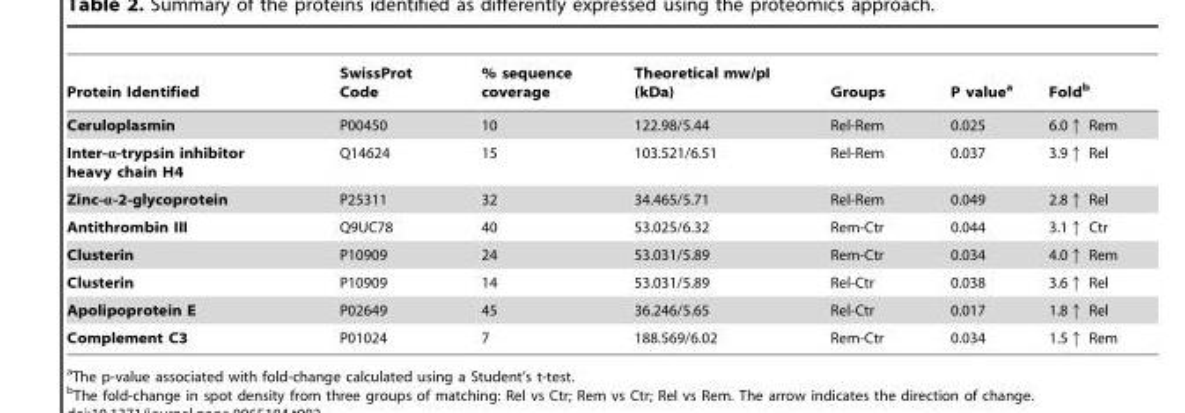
<table><thead><tr><td>Protein Identified</td><td>SwissProt Code</td><td>% sequence coverage</td><td>Theoretical mw/pI (kDa)</td><td>Groups</td><td>P value<sup>a</sup></td><td>Fold<sup>b</sup></td></tr></thead><tbody><tr><td>Ceruloplasmin</td><td>P00450</td><td>10</td><td>122.98/5.44</td><td>Rel-Rem</td><td>0.025</td><td>6.0↑ Rem</td></tr><tr><td>Inter-α-trypsin inhibitor heavy chain H4</td><td>Q14624</td><td>15</td><td>103.521/6.51</td><td>Rel-Rem</td><td>0.037</td><td>3.9↑ Rel</td></tr><tr><td>Zinc-α-2-glycoprotein</td><td>P25311</td><td>32</td><td>34.465/5.71</td><td>Rel-Rem</td><td>0.049</td><td>2.8↑ Rel</td></tr><tr><td>Antithrombin III</td><td>Q9UC78</td><td>40</td><td>53.025/6.32</td><td>Rem-Ctr</td><td>0.044</td><td>3.1↑ Ctr</td></tr><tr><td>Clusterin</td><td>P10909</td><td>24</td><td>53.031/5.89</td><td>Rem-Ctr</td><td>0.034</td><td>4.0↑ Rem</td></tr><tr><td>Clusterin</td><td>P10909</td><td>14</td><td>53.031/5.89</td><td>Rel-Ctr</td><td>0.038</td><td>3.6↑ Rel</td></tr><tr><td>Apolipoprotein E</td><td>P02649</td><td>45</td><td>36.246/5.65</td><td>Rel-Ctr</td><td>0.017</td><td>1.8↑ Rel</td></tr><tr><td>Complement C3</td><td>P01024</td><td>7</td><td>188.569/6.02</td><td>Rem-Ctr</td><td>0.034</td><td>1.5↑ Rem</td></tr></tbody></table>